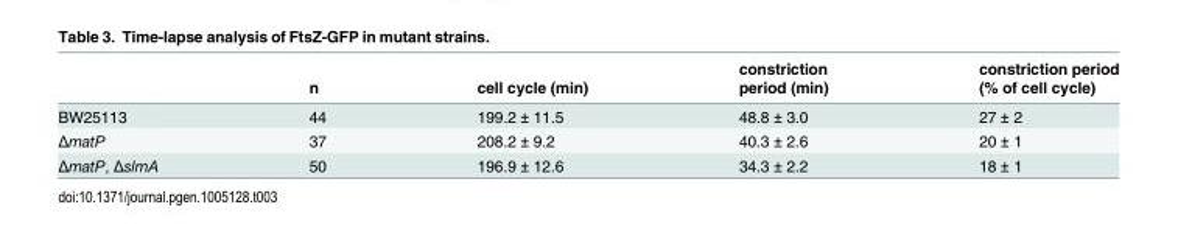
<table><thead><tr><td rowspan="2"></td><td rowspan="2">n</td><td rowspan="2">cell cycle (min)</td><td rowspan="2">constriction period (min)</td><td rowspan="2">constriction period (% of cell cycle)</td></tr><tr></tr></thead><tbody><tr><td>BW25113</td><td>44</td><td>199.2 ± 11.5</td><td>48.8 ± 3.0</td><td>27 ± 2</td></tr><tr><td>ΔmatP</td><td>37</td><td>208.2 ± 9.2</td><td>40.3 ± 2.6</td><td>20 ± 1</td></tr><tr><td>ΔmatP, ΔslmA</td><td>50</td><td>196.9 ± 12.6</td><td>34.3 ± 2.2</td><td>18 ± 1</td></tr></tbody></table>